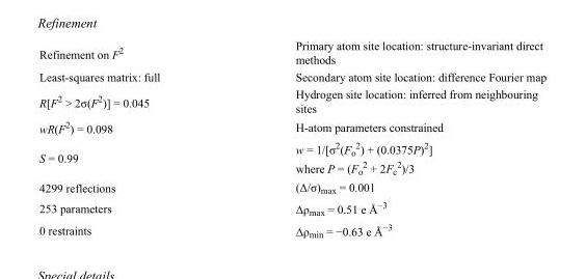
<table><tbody><tr><td>Refinement on F<sup>2</sup></td><td>Primary atom site location: structure-invariant direct methods</td></tr><tr><td>Least-squares matrix: full</td><td>Secondary atom site location: difference Fourier map</td></tr><tr><td>R[F<sup>2</sup> &gt; 2σ(F<sup>2</sup>)] = 0.045</td><td>Hydrogen site location: inferred from neighbouring sites</td></tr><tr><td>wR(F<sup>2</sup>) = 0.098</td><td>H-atom parameters constrained</td></tr><tr><td>S = 0.99</td><td>w = 1/[σ<sup>2</sup>(F<sub>o</sub> <sup>2</sup>) + (0.0375P)<sup>2</sup>] where P = (F<sub>o</sub> <sup>2</sup> + 2F<sub>c</sub> <sup>2</sup>)/3</td></tr><tr><td>4299 reflections</td><td>(Δ/σ)<sub>max</sub> = 0.001</td></tr><tr><td>253 parameters</td><td>Δρ<sub>max</sub> = 0.51 e Å<sup>−3</sup></td></tr><tr><td>0 restraints</td><td>Δρ<sub>min</sub> = −0.63 e Å<sup>−3</sup></td></tr></tbody></table>